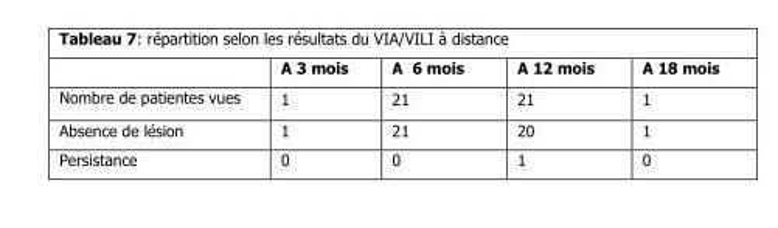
<table><thead><tr><td></td><td>A 3 mois</td><td>A 6 mois</td><td>A 12 mois</td><td>A 18 mois</td></tr></thead><tbody><tr><td>Nombre de patientes vues</td><td>1</td><td>21</td><td>21</td><td>1</td></tr><tr><td>Absence de lésion</td><td>1</td><td>21</td><td>20</td><td>1</td></tr><tr><td>Persistance</td><td>0</td><td>0</td><td>1</td><td>0</td></tr></tbody></table>